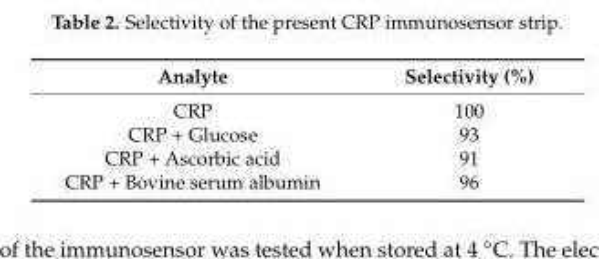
<table><thead><tr><td>Analyte</td><td>Selectivity (%)</td></tr></thead><tbody><tr><td>CRP</td><td>100</td></tr><tr><td>CRP + Glucose</td><td>93</td></tr><tr><td>CRP + Ascorbic acid</td><td>91</td></tr><tr><td>CRP + Bovine serum albumin</td><td>96</td></tr></tbody></table>